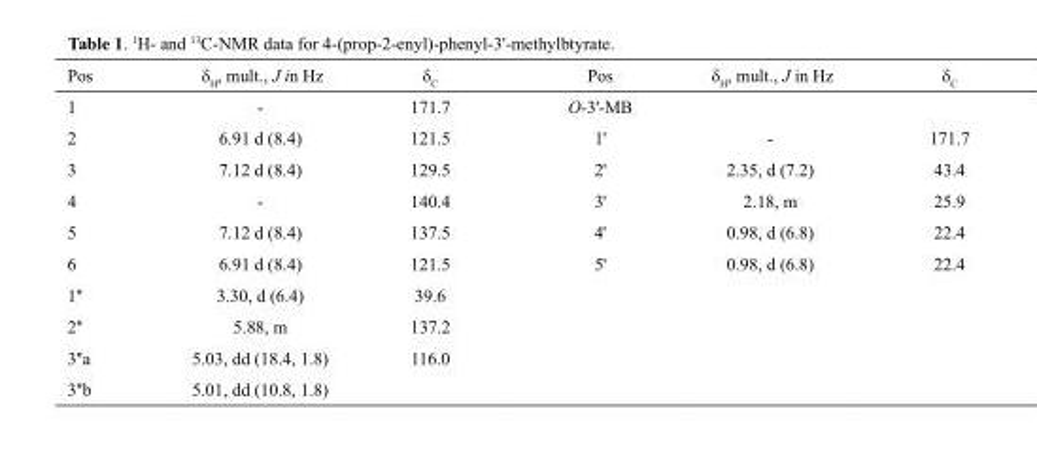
<table><thead><tr><td>Pos</td><td>δ<sub>H</sub>, mult., J in Hz</td><td>δ<sub>C</sub></td><td>Pos</td><td>δ<sub>H</sub>, mult., J in Hz</td><td>δ<sub>C</sub></td></tr></thead><tbody><tr><td>1</td><td>-</td><td>171.7</td><td>O-3&#x27;-MB</td><td></td><td></td></tr><tr><td>2</td><td>6.91 d (8.4)</td><td>121.5</td><td>1&#x27;</td><td>-</td><td>171.7</td></tr><tr><td>3</td><td>7.12 d (8.4)</td><td>129.5</td><td>2&#x27;</td><td>2.35, d (7.2)</td><td>43.4</td></tr><tr><td>4</td><td>-</td><td>140.4</td><td>3&#x27;</td><td>2.18, m</td><td>25.9</td></tr><tr><td>5</td><td>7.12 d (8.4)</td><td>137.5</td><td>4&#x27;</td><td>0.98, d (6.8)</td><td>22.4</td></tr><tr><td>6</td><td>6.91 d (8.4)</td><td>121.5</td><td>5&#x27;</td><td>0.98, d (6.8)</td><td>22.4</td></tr><tr><td>1&#x27;&#x27;</td><td>3.30, d (6.4)</td><td>39.6</td><td></td><td></td><td></td></tr><tr><td>2&#x27;&#x27;</td><td>5.88, m</td><td>137.2</td><td></td><td></td><td></td></tr><tr><td>3&#x27;&#x27;a</td><td>5.03, dd (18.4, 1.8)</td><td>116.0</td><td></td><td></td><td></td></tr><tr><td>3&#x27;&#x27;b</td><td>5.01, dd (10.8, 1.8)</td><td></td><td></td><td></td><td></td></tr></tbody></table>